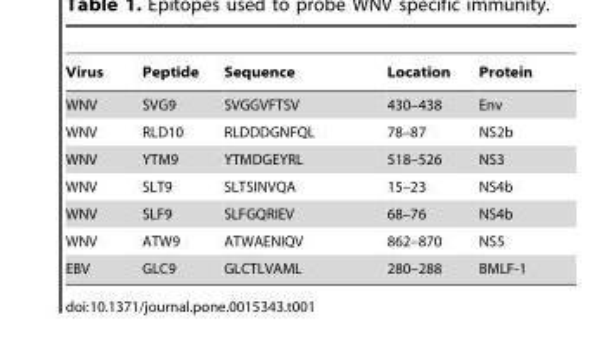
<table><thead><tr><td>Virus</td><td>Peptide</td><td>Sequence</td><td>Location</td><td>Protein</td></tr></thead><tbody><tr><td>WNV</td><td>SVG9</td><td>SVGGVFTSV</td><td>430–438</td><td>Env</td></tr><tr><td>WNV</td><td>RLD10</td><td>RLDDDGNFQL</td><td>78–87</td><td>NS2b</td></tr><tr><td>WNV</td><td>YTM9</td><td>YTMDGEYRL</td><td>518–526</td><td>NS3</td></tr><tr><td>WNV</td><td>SLT9</td><td>SLTSINVQA</td><td>15–23</td><td>NS4b</td></tr><tr><td>WNV</td><td>SLF9</td><td>SLFGQRIEV</td><td>68–76</td><td>NS4b</td></tr><tr><td>WNV</td><td>ATW9</td><td>ATWAENIQV</td><td>862–870</td><td>NS5</td></tr><tr><td>EBV</td><td>GLC9</td><td>GLCTLVAML</td><td>280–288</td><td>BMLF-1</td></tr></tbody></table>